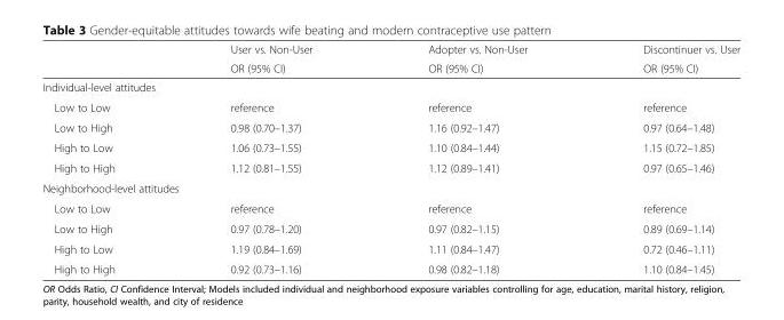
<table><thead><tr><td rowspan="2"></td><td rowspan="2">User vs. Non-User OR (95% CI)</td><td rowspan="2">Adopter vs. Non-User OR (95% CI)</td><td rowspan="2">Discontinuer vs. User OR (95% CI)</td></tr><tr></tr></thead><tbody><tr><td colspan="4">Individual-level attitudes</td></tr><tr><td>Low to Low</td><td>reference</td><td>reference</td><td>reference</td></tr><tr><td>Low to High</td><td>0.98 (0.70–1.37)</td><td>1.16 (0.92–1.47)</td><td>0.97 (0.64–1.48)</td></tr><tr><td>High to Low</td><td>1.06 (0.73–1.55)</td><td>1.10 (0.84–1.44)</td><td>1.15 (0.72–1.85)</td></tr><tr><td>High to High</td><td>1.12 (0.81–1.55)</td><td>1.12 (0.89–1.41)</td><td>0.97 (0.65–1.46)</td></tr><tr><td colspan="4">Neighborhood-level attitudes</td></tr><tr><td>Low to Low</td><td>reference</td><td>reference</td><td>reference</td></tr><tr><td>Low to High</td><td>0.97 (0.78–1.20)</td><td>0.97 (0.82–1.15)</td><td>0.89 (0.69–1.14)</td></tr><tr><td>High to Low</td><td>1.19 (0.84–1.69)</td><td>1.11 (0.84–1.47)</td><td>0.72 (0.46–1.11)</td></tr><tr><td>High to High</td><td>0.92 (0.73–1.16)</td><td>0.98 (0.82–1.18)</td><td>1.10 (0.84–1.45)</td></tr></tbody></table>